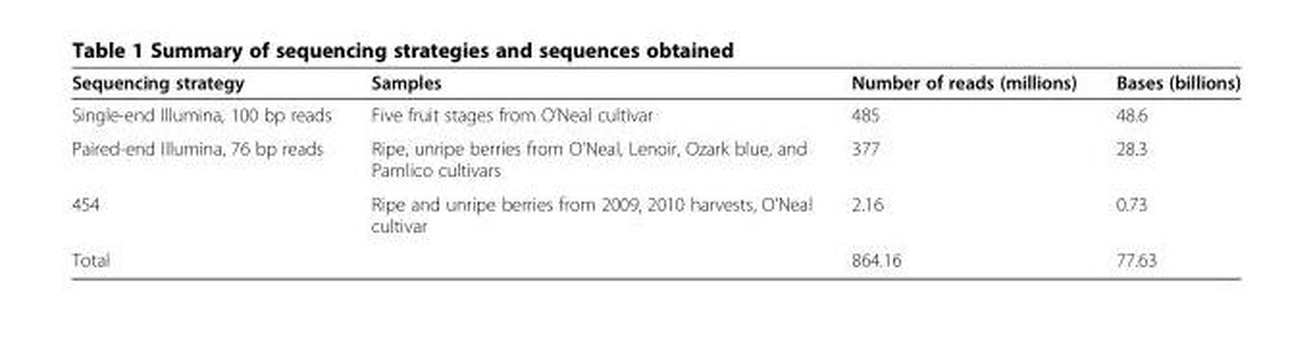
<table><thead><tr><td>Sequencing strategy</td><td>Samples</td><td>Number of reads (millions)</td><td>Bases (billions)</td></tr></thead><tbody><tr><td>Single-end Illumina, 100 bp reads</td><td>Five fruit stages from O’Neal cultivar</td><td>485</td><td>48.6</td></tr><tr><td>Paired-end Illumina, 76 bp reads</td><td>Ripe, unripe berries from O’Neal, Lenoir, Ozark blue, and Pamlico cultivars</td><td>377</td><td>28.3</td></tr><tr><td>454</td><td>Ripe and unripe berries from 2009, 2010 harvests, O’Neal cultivar</td><td>2.16</td><td>0.73</td></tr><tr><td>Total</td><td></td><td>864.16</td><td>77.63</td></tr></tbody></table>